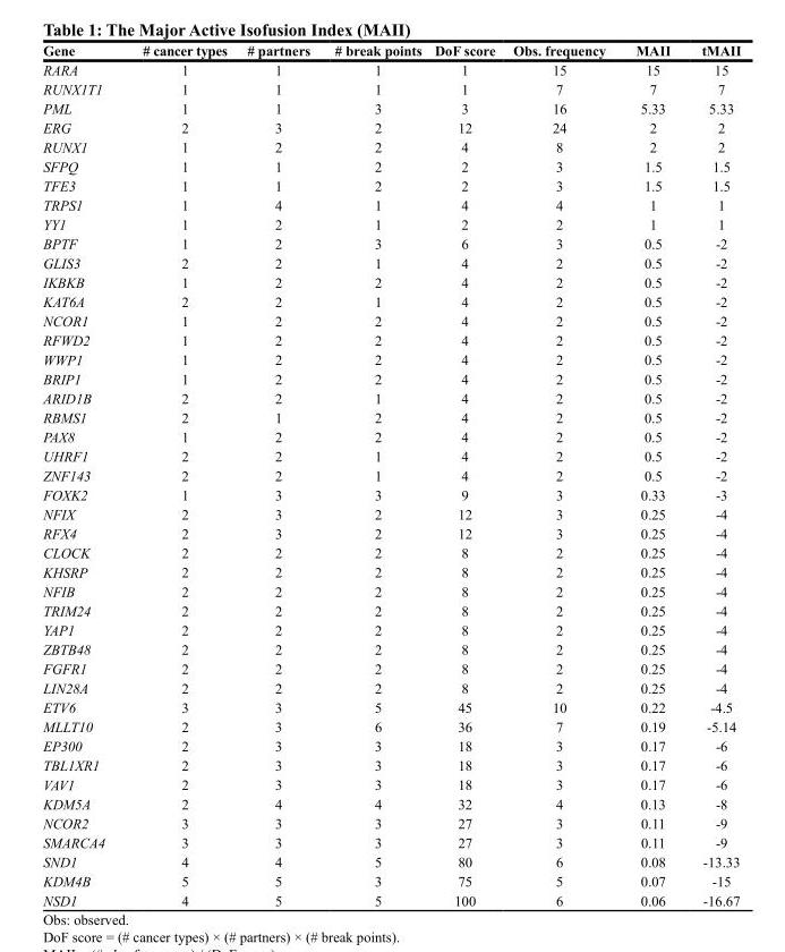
<table><thead><tr><td>Gene</td><td># cancer types</td><td># partners</td><td># break points</td><td>DoF score</td><td>Obs. frequency</td><td>MAII</td><td>tMAII</td></tr></thead><tbody><tr><td>RARA</td><td>1</td><td>1</td><td>1</td><td>1</td><td>15</td><td>15</td><td>15</td></tr><tr><td>RUNX1T1</td><td>1</td><td>1</td><td>1</td><td>1</td><td>7</td><td>7</td><td>7</td></tr><tr><td>PML</td><td>1</td><td>1</td><td>3</td><td>3</td><td>16</td><td>5.33</td><td>5.33</td></tr><tr><td>ERG</td><td>2</td><td>3</td><td>2</td><td>12</td><td>24</td><td>2</td><td>2</td></tr><tr><td>RUNX1</td><td>1</td><td>2</td><td>2</td><td>4</td><td>8</td><td>2</td><td>2</td></tr><tr><td>SFPQ</td><td>1</td><td>1</td><td>2</td><td>2</td><td>3</td><td>1.5</td><td>1.5</td></tr><tr><td>TFE3</td><td>1</td><td>1</td><td>2</td><td>2</td><td>3</td><td>1.5</td><td>1.5</td></tr><tr><td>TRPS1</td><td>1</td><td>4</td><td>1</td><td>4</td><td>4</td><td>1</td><td>1</td></tr><tr><td>YY1</td><td>1</td><td>2</td><td>1</td><td>2</td><td>2</td><td>1</td><td>1</td></tr><tr><td>BPTF</td><td>1</td><td>2</td><td>3</td><td>6</td><td>3</td><td>0.5</td><td>-2</td></tr><tr><td>GLIS3</td><td>2</td><td>2</td><td>1</td><td>4</td><td>2</td><td>0.5</td><td>-2</td></tr><tr><td>IKBKB</td><td>1</td><td>2</td><td>2</td><td>4</td><td>2</td><td>0.5</td><td>-2</td></tr><tr><td>KAT6A</td><td>2</td><td>2</td><td>1</td><td>4</td><td>2</td><td>0.5</td><td>-2</td></tr><tr><td>NCOR1</td><td>1</td><td>2</td><td>2</td><td>4</td><td>2</td><td>0.5</td><td>-2</td></tr><tr><td>RFWD2</td><td>1</td><td>2</td><td>2</td><td>4</td><td>2</td><td>0.5</td><td>-2</td></tr><tr><td>WWP1</td><td>1</td><td>2</td><td>2</td><td>4</td><td>2</td><td>0.5</td><td>-2</td></tr><tr><td>BRIP1</td><td>1</td><td>2</td><td>2</td><td>4</td><td>2</td><td>0.5</td><td>-2</td></tr><tr><td>ARID1B</td><td>2</td><td>2</td><td>1</td><td>4</td><td>2</td><td>0.5</td><td>-2</td></tr><tr><td>RBMS1</td><td>2</td><td>1</td><td>2</td><td>4</td><td>2</td><td>0.5</td><td>-2</td></tr><tr><td>PAX8</td><td>1</td><td>2</td><td>2</td><td>4</td><td>2</td><td>0.5</td><td>-2</td></tr><tr><td>UHRF1</td><td>2</td><td>2</td><td>1</td><td>4</td><td>2</td><td>0.5</td><td>-2</td></tr><tr><td>ZNF143</td><td>2</td><td>2</td><td>1</td><td>4</td><td>2</td><td>0.5</td><td>-2</td></tr><tr><td>FOXK2</td><td>1</td><td>3</td><td>3</td><td>9</td><td>3</td><td>0.33</td><td>-3</td></tr><tr><td>NFIX</td><td>2</td><td>3</td><td>2</td><td>12</td><td>3</td><td>0.25</td><td>-4</td></tr><tr><td>RFX4</td><td>2</td><td>3</td><td>2</td><td>12</td><td>3</td><td>0.25</td><td>-4</td></tr><tr><td>CLOCK</td><td>2</td><td>2</td><td>2</td><td>8</td><td>2</td><td>0.25</td><td>-4</td></tr><tr><td>KHSRP</td><td>2</td><td>2</td><td>2</td><td>8</td><td>2</td><td>0.25</td><td>-4</td></tr><tr><td>NFIB</td><td>2</td><td>2</td><td>2</td><td>8</td><td>2</td><td>0.25</td><td>-4</td></tr><tr><td>TRIM24</td><td>2</td><td>2</td><td>2</td><td>8</td><td>2</td><td>0.25</td><td>-4</td></tr><tr><td>YAP1</td><td>2</td><td>2</td><td>2</td><td>8</td><td>2</td><td>0.25</td><td>-4</td></tr><tr><td>ZBTB48</td><td>2</td><td>2</td><td>2</td><td>8</td><td>2</td><td>0.25</td><td>-4</td></tr><tr><td>FGFR1</td><td>2</td><td>2</td><td>2</td><td>8</td><td>2</td><td>0.25</td><td>-4</td></tr><tr><td>LIN28A</td><td>2</td><td>2</td><td>2</td><td>8</td><td>2</td><td>0.25</td><td>-4</td></tr><tr><td>ETV6</td><td>3</td><td>3</td><td>5</td><td>45</td><td>10</td><td>0.22</td><td>-4.5</td></tr><tr><td>MLLT10</td><td>2</td><td>3</td><td>6</td><td>36</td><td>7</td><td>0.19</td><td>-5.14</td></tr><tr><td>EP300</td><td>2</td><td>3</td><td>3</td><td>18</td><td>3</td><td>0.17</td><td>-6</td></tr><tr><td>TBL1XR1</td><td>2</td><td>3</td><td>3</td><td>18</td><td>3</td><td>0.17</td><td>-6</td></tr><tr><td>VAV1</td><td>2</td><td>3</td><td>3</td><td>18</td><td>3</td><td>0.17</td><td>-6</td></tr><tr><td>KDM5A</td><td>2</td><td>4</td><td>4</td><td>32</td><td>4</td><td>0.13</td><td>-8</td></tr><tr><td>NCOR2</td><td>3</td><td>3</td><td>3</td><td>27</td><td>3</td><td>0.11</td><td>-9</td></tr><tr><td>SMARCA4</td><td>3</td><td>3</td><td>3</td><td>27</td><td>3</td><td>0.11</td><td>-9</td></tr><tr><td>SND1</td><td>4</td><td>4</td><td>5</td><td>80</td><td>6</td><td>0.08</td><td>-13.33</td></tr><tr><td>KDM4B</td><td>5</td><td>5</td><td>3</td><td>75</td><td>5</td><td>0.07</td><td>-15</td></tr><tr><td>NSD1</td><td>4</td><td>5</td><td>5</td><td>100</td><td>6</td><td>0.06</td><td>-16.67</td></tr></tbody></table>